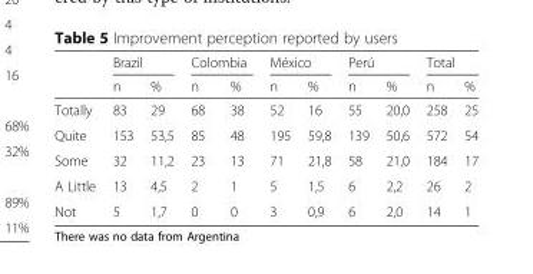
<table><thead><tr><td rowspan="2"></td><td colspan="2">Brazil</td><td colspan="2">Colombia</td><td colspan="2">México</td><td colspan="2">Perú</td><td colspan="2">Total</td></tr><tr><td>n</td><td>%</td><td>n</td><td>%</td><td>n</td><td>%</td><td>n</td><td>%</td><td>n</td><td>%</td></tr></thead><tbody><tr><td>Totally</td><td>83</td><td>29</td><td>68</td><td>38</td><td>52</td><td>16</td><td>55</td><td>20,0</td><td>258</td><td>25</td></tr><tr><td>Quite</td><td>153</td><td>53,5</td><td>85</td><td>48</td><td>195</td><td>59,8</td><td>139</td><td>50,6</td><td>572</td><td>54</td></tr><tr><td>Some</td><td>32</td><td>11,2</td><td>23</td><td>13</td><td>71</td><td>21,8</td><td>58</td><td>21,0</td><td>184</td><td>17</td></tr><tr><td>A Little</td><td>13</td><td>4,5</td><td>2</td><td>1</td><td>5</td><td>1,5</td><td>6</td><td>2,2</td><td>26</td><td>2</td></tr><tr><td>Not</td><td>5</td><td>1,7</td><td>0</td><td>0</td><td>3</td><td>0,9</td><td>6</td><td>2,0</td><td>14</td><td>1</td></tr></tbody></table>